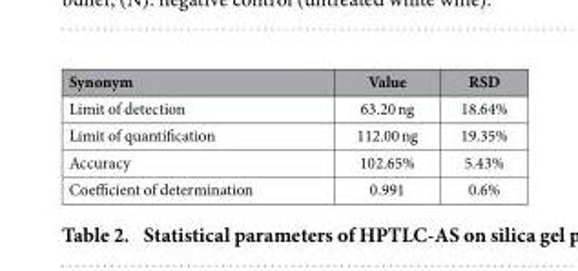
<table><thead><tr><td>Synonym</td><td>Value</td><td>RSD</td></tr></thead><tbody><tr><td>Limit of detection</td><td>63.20 ng</td><td>18.64%</td></tr><tr><td>Limit of quantification</td><td>112.00 ng</td><td>19.35%</td></tr><tr><td>Accuracy</td><td>102.65%</td><td>5.43%</td></tr><tr><td>Coefficient of determination</td><td>0.991</td><td>0.6%</td></tr></tbody></table>